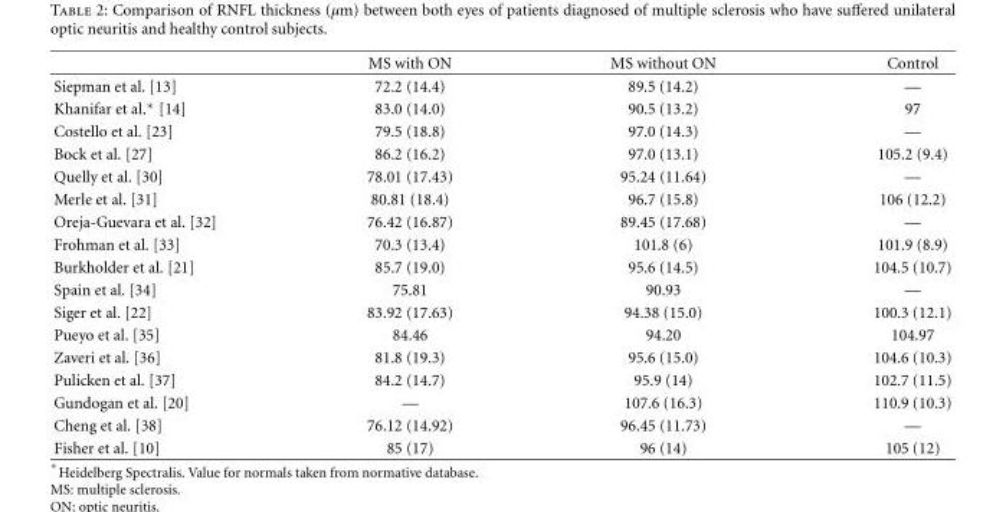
<table><thead><tr><td></td><td>MS with ON</td><td>MS without ON</td><td>Control</td></tr></thead><tbody><tr><td>Siepman et al. [13]</td><td>72.2 (14.4)</td><td>89.5 (14.2)</td><td>—</td></tr><tr><td>Khanifar et al.∗ [14]</td><td>83.0 (14.0)</td><td>90.5 (13.2)</td><td>97</td></tr><tr><td>Costello et al. [23]</td><td>79.5 (18.8)</td><td>97.0 (14.3)</td><td>—</td></tr><tr><td>Bock et al. [27]</td><td>86.2 (16.2)</td><td>97.0 (13.1)</td><td>105.2 (9.4)</td></tr><tr><td>Quelly et al. [30]</td><td>78.01 (17.43)</td><td>95.24 (11.64)</td><td>—</td></tr><tr><td>Merle et al. [31]</td><td>80.81 (18.4)</td><td>96.7 (15.8)</td><td>106 (12.2)</td></tr><tr><td>Oreja-Guevara et al. [32]</td><td>76.42 (16.87)</td><td>89.45 (17.68)</td><td>—</td></tr><tr><td>Frohman et al. [33]</td><td>70.3 (13.4)</td><td>101.8 (6)</td><td>101.9 (8.9)</td></tr><tr><td>Burkholder et al. [21]</td><td>85.7 (19.0)</td><td>95.6 (14.5)</td><td>104.5 (10.7)</td></tr><tr><td>Spain et al. [34]</td><td>75.81</td><td>90.93</td><td>—</td></tr><tr><td>Siger et al. [22]</td><td>83.92 (17.63)</td><td>94.38 (15.0)</td><td>100.3 (12.1)</td></tr><tr><td>Pueyo et al. [35]</td><td>84.46</td><td>94.20</td><td>104.97</td></tr><tr><td>Zaveri et al. [36]</td><td>81.8 (19.3)</td><td>95.6 (15.0)</td><td>104.6 (10.3)</td></tr><tr><td>Pulicken et al. [37]</td><td>84.2 (14.7)</td><td>95.9 (14)</td><td>102.7 (11.5)</td></tr><tr><td>Gundogan et al. [20]</td><td>—</td><td>107.6 (16.3)</td><td>110.9 (10.3)</td></tr><tr><td>Cheng et al. [38]</td><td>76.12 (14.92)</td><td>96.45 (11.73)</td><td>—</td></tr><tr><td>Fisher et al. [10]</td><td>85 (17)</td><td>96 (14)</td><td>105 (12)</td></tr></tbody></table>